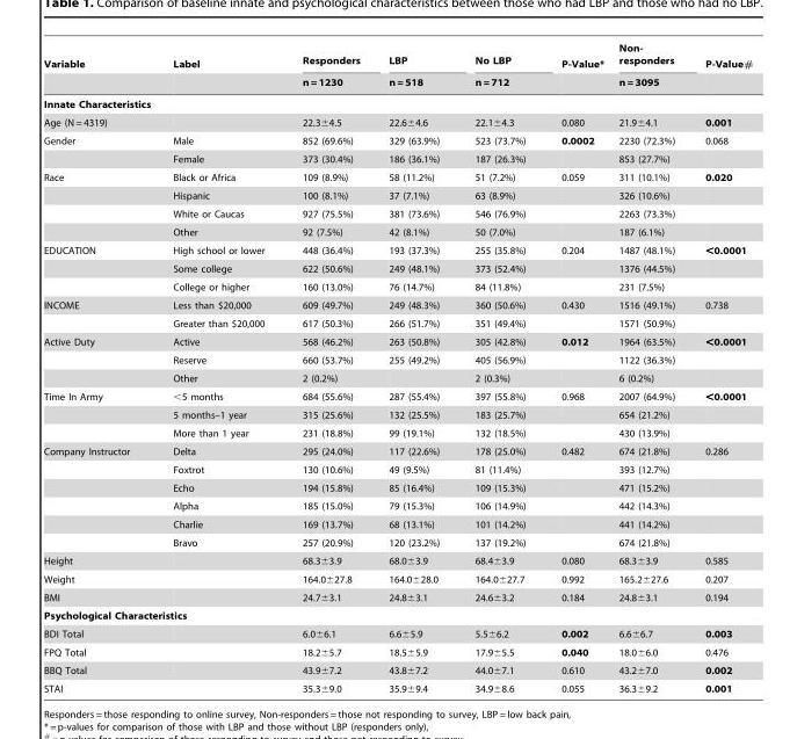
<table><thead><tr><td rowspan="2">Variable</td><td rowspan="2">Label</td><td rowspan="2">Responders n = 1230</td><td rowspan="2">LBP n = 518</td><td rowspan="2">No LBP n = 712</td><td rowspan="2">P-Value*</td><td rowspan="2">Non- responders n = 3095</td><td rowspan="2">P-Value#</td></tr><tr></tr></thead><tbody><tr><td colspan="8">Innate Characteristics</td></tr><tr><td>Age (N = 4319)</td><td></td><td>22.3±4.5</td><td>22.6±4.6</td><td>22.1±4.3</td><td>0.080</td><td>21.9±4.1</td><td>0.001</td></tr><tr><td rowspan="2">Gender</td><td>Male</td><td>852 (69.6%)</td><td>329 (63.9%)</td><td>523 (73.7%)</td><td>0.0002</td><td>2230 (72.3%)</td><td>0.068</td></tr><tr><td>Female</td><td>373 (30.4%)</td><td>186 (36.1%)</td><td>187 (26.3%)</td><td></td><td>853 (27.7%)</td><td></td></tr><tr><td rowspan="4">Race</td><td>Black or Africa</td><td>109 (8.9%)</td><td>58 (11.2%)</td><td>51 (7.2%)</td><td>0.059</td><td>311 (10.1%)</td><td>0.020</td></tr><tr><td>Hispanic</td><td>100 (8.1%)</td><td>37 (7.1%)</td><td>63 (8.9%)</td><td></td><td>326 (10.6%)</td><td></td></tr><tr><td>White or Caucas</td><td>927 (75.5%)</td><td>381 (73.6%)</td><td>546 (76.9%)</td><td></td><td>2263 (73.3%)</td><td></td></tr><tr><td>Other</td><td>92 (7.5%)</td><td>42 (8.1%)</td><td>50 (7.0%)</td><td></td><td>187 (6.1%)</td><td></td></tr><tr><td rowspan="3">EDUCATION</td><td>High school or lower</td><td>448 (36.4%)</td><td>193 (37.3%)</td><td>255 (35.8%)</td><td>0.204</td><td>1487 (48.1%)</td><td>&lt;0.0001</td></tr><tr><td>Some college</td><td>622 (50.6%)</td><td>249 (48.1%)</td><td>373 (52.4%)</td><td></td><td>1376 (44.5%)</td><td></td></tr><tr><td>College or higher</td><td>160 (13.0%)</td><td>76 (14.7%)</td><td>84 (11.8%)</td><td></td><td>231 (7.5%)</td><td></td></tr><tr><td rowspan="2">INCOME</td><td>Less than $20,000</td><td>609 (49.7%)</td><td>249 (48.3%)</td><td>360 (50.6%)</td><td>0.430</td><td>1516 (49.1%)</td><td>0.738</td></tr><tr><td>Greater than $20,000</td><td>617 (50.3%)</td><td>266 (51.7%)</td><td>351 (49.4%)</td><td></td><td>1571 (50.9%)</td><td></td></tr><tr><td rowspan="3">Active Duty</td><td>Active</td><td>568 (46.2%)</td><td>263 (50.8%)</td><td>305 (42.8%)</td><td>0.012</td><td>1964 (63.5%)</td><td>&lt;0.0001</td></tr><tr><td>Reserve</td><td>660 (53.7%)</td><td>255 (49.2%)</td><td>405 (56.9%)</td><td></td><td>1122 (36.3%)</td><td></td></tr><tr><td>Other</td><td>2 (0.2%)</td><td></td><td>2 (0.3%)</td><td></td><td>6 (0.2%)</td><td></td></tr><tr><td rowspan="3">Time In Army</td><td>&lt;5 months</td><td>684 (55.6%)</td><td>287 (55.4%)</td><td>397 (55.8%)</td><td>0.968</td><td>2007 (64.9%)</td><td>&lt;0.0001</td></tr><tr><td>5 months–1 year</td><td>315 (25.6%)</td><td>132 (25.5%)</td><td>183 (25.7%)</td><td></td><td>654 (21.2%)</td><td></td></tr><tr><td>More than 1 year</td><td>231 (18.8%)</td><td>99 (19.1%)</td><td>132 (18.5%)</td><td></td><td>430 (13.9%)</td><td></td></tr><tr><td rowspan="6">Company Instructor</td><td>Delta</td><td>295 (24.0%)</td><td>117 (22.6%)</td><td>178 (25.0%)</td><td>0.482</td><td>674 (21.8%)</td><td>0.286</td></tr><tr><td>Foxtrot</td><td>130 (10.6%)</td><td>49 (9.5%)</td><td>81 (11.4%)</td><td></td><td>393 (12.7%)</td><td></td></tr><tr><td>Echo</td><td>194 (15.8%)</td><td>85 (16.4%)</td><td>109 (15.3%)</td><td></td><td>471 (15.2%)</td><td></td></tr><tr><td>Alpha</td><td>185 (15.0%)</td><td>79 (15.3%)</td><td>106 (14.9%)</td><td></td><td>442 (14.3%)</td><td></td></tr><tr><td>Charlie</td><td>169 (13.7%)</td><td>68 (13.1%)</td><td>101 (14.2%)</td><td></td><td>441 (14.2%)</td><td></td></tr><tr><td>Bravo</td><td>257 (20.9%)</td><td>120 (23.2%)</td><td>137 (19.2%)</td><td></td><td>674 (21.8%)</td><td></td></tr><tr><td>Height</td><td></td><td>68.3±3.9</td><td>68.0±3.9</td><td>68.4±3.9</td><td>0.080</td><td>68.3±3.9</td><td>0.585</td></tr><tr><td>Weight</td><td></td><td>164.0±27.8</td><td>164.0±28.0</td><td>164.0±27.7</td><td>0.992</td><td>165.2±27.6</td><td>0.207</td></tr><tr><td>BMI</td><td></td><td>24.7±3.1</td><td>24.8±3.1</td><td>24.6±3.2</td><td>0.184</td><td>24.8±3.1</td><td>0.194</td></tr><tr><td colspan="8">Psychological Characteristics</td></tr><tr><td>BDI Total</td><td></td><td>6.0±6.1</td><td>6.6±5.9</td><td>5.5±6.2</td><td>0.002</td><td>6.6±6.7</td><td>0.003</td></tr><tr><td>FPQ Total</td><td></td><td>18.2±5.7</td><td>18.5±5.9</td><td>17.9±5.5</td><td>0.040</td><td>18.0±6.0</td><td>0.476</td></tr><tr><td>BBQ Total</td><td></td><td>43.9±7.2</td><td>43.8±7.2</td><td>44.0±7.1</td><td>0.610</td><td>43.2±7.0</td><td>0.002</td></tr><tr><td>STAI</td><td></td><td>35.3±9.0</td><td>35.9±9.4</td><td>34.9±8.6</td><td>0.055</td><td>36.3±9.2</td><td>0.001</td></tr></tbody></table>